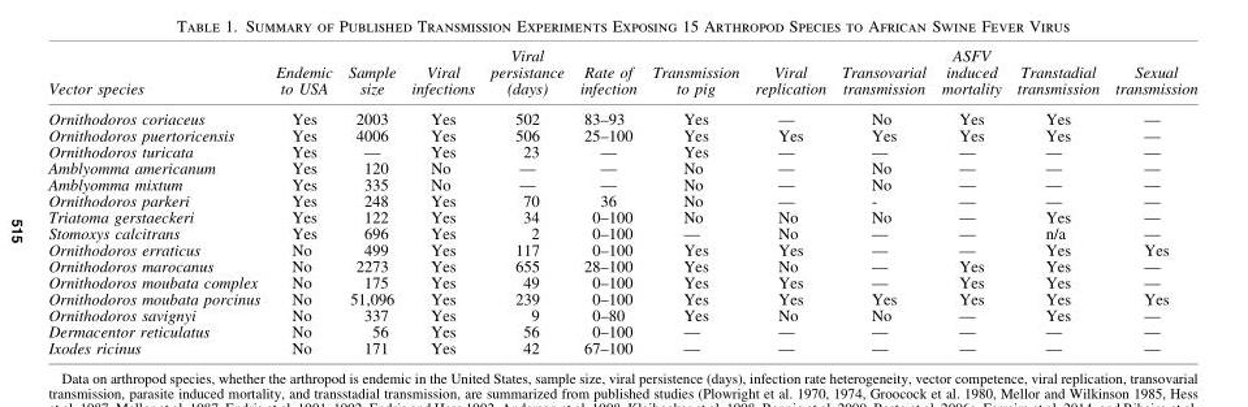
<table><thead><tr><td>Vector species</td><td>Endemic to USA</td><td>Sample size</td><td>Viral infections</td><td>Viral persistance (days)</td><td>Rate of infection</td><td>Transmission to pig</td><td>Viral replication</td><td>Transovarial transmission</td><td>ASFV induced mortality</td><td>Transtadial transmission</td><td>Sexual transmission</td></tr></thead><tbody><tr><td>Ornithodoros coriaceus</td><td>Yes</td><td>2003</td><td>Yes</td><td>502</td><td>83–93</td><td>Yes</td><td>—</td><td>No</td><td>Yes</td><td>Yes</td><td>—</td></tr><tr><td>Ornithodoros puertoricensis</td><td>Yes</td><td>4006</td><td>Yes</td><td>506</td><td>25–100</td><td>Yes</td><td>Yes</td><td>Yes</td><td>Yes</td><td>Yes</td><td>—</td></tr><tr><td>Ornithodoros turicata</td><td>Yes</td><td>—</td><td>Yes</td><td>23</td><td>—</td><td>Yes</td><td>—</td><td>—</td><td>—</td><td>—</td><td>—</td></tr><tr><td>Amblyomma americanum</td><td>Yes</td><td>120</td><td>No</td><td>—</td><td>—</td><td>No</td><td>—</td><td>No</td><td>—</td><td>—</td><td>—</td></tr><tr><td>Amblyomma mixtum</td><td>Yes</td><td>335</td><td>No</td><td>—</td><td>—</td><td>No</td><td>—</td><td>No</td><td>—</td><td>—</td><td>—</td></tr><tr><td>Ornithodoros parkeri</td><td>Yes</td><td>248</td><td>Yes</td><td>70</td><td>36</td><td>No</td><td>—</td><td>-</td><td>—</td><td>—</td><td>—</td></tr><tr><td>Triatoma gerstaeckeri</td><td>Yes</td><td>122</td><td>Yes</td><td>34</td><td>0–100</td><td>No</td><td>No</td><td>No</td><td>—</td><td>Yes</td><td>—</td></tr><tr><td>Stomoxys calcitrans</td><td>Yes</td><td>696</td><td>Yes</td><td>2</td><td>0–100</td><td>—</td><td>No</td><td>—</td><td>—</td><td>n/a</td><td>—</td></tr><tr><td>Ornithodoros erraticus</td><td>No</td><td>499</td><td>Yes</td><td>117</td><td>0–100</td><td>Yes</td><td>Yes</td><td>—</td><td>—</td><td>Yes</td><td>Yes</td></tr><tr><td>Ornithodoros marocanus</td><td>No</td><td>2273</td><td>Yes</td><td>655</td><td>28–100</td><td>Yes</td><td>No</td><td>—</td><td>Yes</td><td>Yes</td><td>—</td></tr><tr><td>Ornithodoros moubata complex</td><td>No</td><td>175</td><td>Yes</td><td>49</td><td>0–100</td><td>Yes</td><td>Yes</td><td>—</td><td>Yes</td><td>Yes</td><td>—</td></tr><tr><td>Ornithodoros moubata porcinus</td><td>No</td><td>51,096</td><td>Yes</td><td>239</td><td>0–100</td><td>Yes</td><td>Yes</td><td>Yes</td><td>Yes</td><td>Yes</td><td>Yes</td></tr><tr><td>Ornithodoros savignyi</td><td>No</td><td>337</td><td>Yes</td><td>9</td><td>0–80</td><td>Yes</td><td>No</td><td>No</td><td>—</td><td>Yes</td><td>—</td></tr><tr><td>Dermacentor reticulatus</td><td>No</td><td>56</td><td>Yes</td><td>56</td><td>0–100</td><td>—</td><td>—</td><td>—</td><td>—</td><td>—</td><td>—</td></tr><tr><td>Ixodes ricinus</td><td>No</td><td>171</td><td>Yes</td><td>42</td><td>67–100</td><td>—</td><td>—</td><td>—</td><td>—</td><td>—</td><td>—</td></tr></tbody></table>